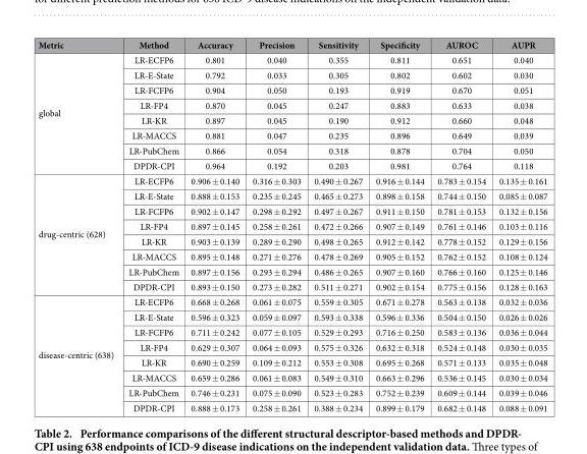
<table><thead><tr><td>Metric</td><td>Method</td><td>Accuracy</td><td>Precision</td><td>Sensitivity</td><td>Specificity</td><td>AUROC</td><td>AUPR</td></tr></thead><tbody><tr><td rowspan="8">global</td><td>LR-ECFP6</td><td>0.801</td><td>0.040</td><td>0.355</td><td>0.811</td><td>0.651</td><td>0.040</td></tr><tr><td>LR-E-State</td><td>0.792</td><td>0.033</td><td>0.305</td><td>0.802</td><td>0.602</td><td>0.030</td></tr><tr><td>LR-FCFP6</td><td>0.904</td><td>0.050</td><td>0.193</td><td>0.919</td><td>0.670</td><td>0.051</td></tr><tr><td>LR-FP4</td><td>0.870</td><td>0.045</td><td>0.247</td><td>0.883</td><td>0.633</td><td>0.038</td></tr><tr><td>LR-KR</td><td>0.897</td><td>0.045</td><td>0.190</td><td>0.912</td><td>0.660</td><td>0.048</td></tr><tr><td>LR-MACCS</td><td>0.881</td><td>0.047</td><td>0.235</td><td>0.896</td><td>0.649</td><td>0.039</td></tr><tr><td>LR-PubChem</td><td>0.866</td><td>0.054</td><td>0.318</td><td>0.878</td><td>0.704</td><td>0.050</td></tr><tr><td>DPDR-CPI</td><td>0.964</td><td>0.192</td><td>0.203</td><td>0.981</td><td>0.764</td><td>0.118</td></tr><tr><td rowspan="8">drug-centric (628)</td><td>LR-ECFP6</td><td>0.906 ± 0.140</td><td>0.316 ± 0.303</td><td>0.490 ± 0.267</td><td>0.916 ± 0.144</td><td>0.783 ± 0.154</td><td>0.135 ± 0.161</td></tr><tr><td>LR-E-State</td><td>0.888 ± 0.153</td><td>0.235 ± 0.245</td><td>0.465 ± 0.273</td><td>0.898 ± 0.158</td><td>0.744 ± 0.150</td><td>0.085 ± 0.087</td></tr><tr><td>LR-FCFP6</td><td>0.902 ± 0.147</td><td>0.298 ± 0.292</td><td>0.497 ± 0.267</td><td>0.911 ± 0.150</td><td>0.781 ± 0.153</td><td>0.132 ± 0.156</td></tr><tr><td>LR-FP4</td><td>0.897 ± 0.145</td><td>0.258 ± 0.261</td><td>0.472 ± 0.266</td><td>0.907 ± 0.149</td><td>0.761 ± 0.146</td><td>0.103 ± 0.116</td></tr><tr><td>LR-KR</td><td>0.903 ± 0.139</td><td>0.289 ± 0.290</td><td>0.498 ± 0.265</td><td>0.912 ± 0.142</td><td>0.778 ± 0.152</td><td>0.129 ± 0.156</td></tr><tr><td>LR-MACCS</td><td>0.895 ± 0.148</td><td>0.271 ± 0.276</td><td>0.478 ± 0.269</td><td>0.905 ± 0.152</td><td>0.762 ± 0.152</td><td>0.108 ± 0.124</td></tr><tr><td>LR-PubChem</td><td>0.897 ± 0.156</td><td>0.293 ± 0.294</td><td>0.486 ± 0.265</td><td>0.907 ± 0.160</td><td>0.766 ± 0.160</td><td>0.125 ± 0.146</td></tr><tr><td>DPDR-CPI</td><td>0.893 ± 0.150</td><td>0.273 ± 0.282</td><td>0.511 ± 0.271</td><td>0.902 ± 0.154</td><td>0.775 ± 0.156</td><td>0.128 ± 0.163</td></tr><tr><td rowspan="8">disease-centric (638)</td><td>LR-ECFP6</td><td>0.668 ± 0.268</td><td>0.061 ± 0.075</td><td>0.559 ± 0.305</td><td>0.671 ± 0.278</td><td>0.563 ± 0.138</td><td>0.032 ± 0.036</td></tr><tr><td>LR-E-State</td><td>0.596 ± 0.323</td><td>0.059 ± 0.097</td><td>0.593 ± 0.338</td><td>0.596 ± 0.336</td><td>0.504 ± 0.150</td><td>0.026 ± 0.026</td></tr><tr><td>LR-FCFP6</td><td>0.711 ± 0.242</td><td>0.077 ± 0.105</td><td>0.529 ± 0.293</td><td>0.716 ± 0.250</td><td>0.583 ± 0.136</td><td>0.036 ± 0.044</td></tr><tr><td>LR-FP4</td><td>0.629 ± 0.307</td><td>0.064 ± 0.093</td><td>0.575 ± 0.326</td><td>0.632 ± 0.318</td><td>0.524 ± 0.148</td><td>0.030 ± 0.035</td></tr><tr><td>LR-KR</td><td>0.690 ± 0.259</td><td>0.109 ± 0.212</td><td>0.553 ± 0.308</td><td>0.695 ± 0.268</td><td>0.571 ± 0.133</td><td>0.035 ± 0.048</td></tr><tr><td>LR-MACCS</td><td>0.659 ± 0.286</td><td>0.061 ± 0.083</td><td>0.549 ± 0.310</td><td>0.663 ± 0.296</td><td>0.536 ± 0.145</td><td>0.030 ± 0.034</td></tr><tr><td>LR-PubChem</td><td>0.746 ± 0.231</td><td>0.075 ± 0.090</td><td>0.523 ± 0.283</td><td>0.752 ± 0.239</td><td>0.609 ± 0.144</td><td>0.039 ± 0.046</td></tr><tr><td>DPDR-CPI</td><td>0.888 ± 0.173</td><td>0.258 ± 0.261</td><td>0.388 ± 0.234</td><td>0.899 ± 0.179</td><td>0.682 ± 0.148</td><td>0.088 ± 0.091</td></tr></tbody></table>